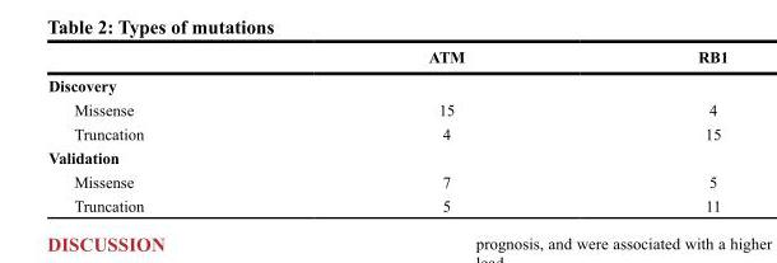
<table><thead><tr><td></td><td>ATM</td><td>RB1</td></tr></thead><tbody><tr><td colspan="3">Discovery</td></tr><tr><td>Missense</td><td>15</td><td>4</td></tr><tr><td>Truncation</td><td>4</td><td>15</td></tr><tr><td colspan="3">Validation</td></tr><tr><td>Missense</td><td>7</td><td>5</td></tr><tr><td>Truncation</td><td>5</td><td>11</td></tr></tbody></table>